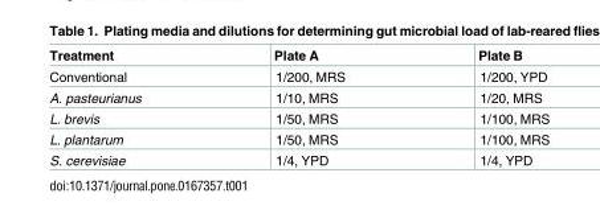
<table><thead><tr><td>Treatment</td><td>Plate A</td><td>Plate B</td></tr></thead><tbody><tr><td>Conventional</td><td>1/200, MRS</td><td>1/200, YPD</td></tr><tr><td>A. pasteurianus</td><td>1/10, MRS</td><td>1/20, MRS</td></tr><tr><td>L. brevis</td><td>1/50, MRS</td><td>1/100, MRS</td></tr><tr><td>L. plantarum</td><td>1/50, MRS</td><td>1/100, MRS</td></tr><tr><td>S. cerevisiae</td><td>1/4, YPD</td><td>1/4, YPD</td></tr></tbody></table>